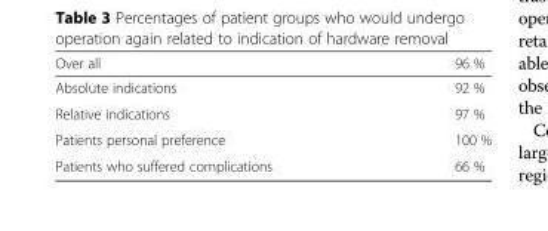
<table><thead><tr><td>Over all</td><td>96 %</td></tr></thead><tbody><tr><td>Absolute indications</td><td>92 %</td></tr><tr><td>Relative indications</td><td>97 %</td></tr><tr><td>Patients personal preference</td><td>100 %</td></tr><tr><td>Patients who suffered complications</td><td>66 %</td></tr></tbody></table>